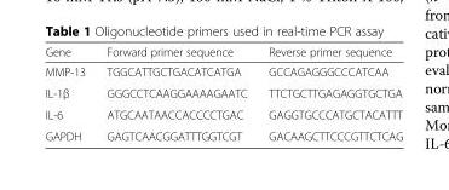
<table><thead><tr><td>Gene</td><td>Forward primer sequence</td><td>Reverse primer sequence</td></tr></thead><tbody><tr><td>MMP-13</td><td>TGGCATTGCTGACATCATGA</td><td>GCCAGAGGGCCCATCAA</td></tr><tr><td>IL-1β</td><td>GGGCCTCAAGGAAAAGAATC</td><td>TTCTGCTTGAGAGGTGCTGA</td></tr><tr><td>IL-6</td><td>ATGCAATAACCACCCCTGAC</td><td>GAGGTGCCCATGCTACATTT</td></tr><tr><td>GAPDH</td><td>GAGTCAACGGATTTGGTCGT</td><td>GACAAGCTTCCCGTTCTCAG</td></tr></tbody></table>